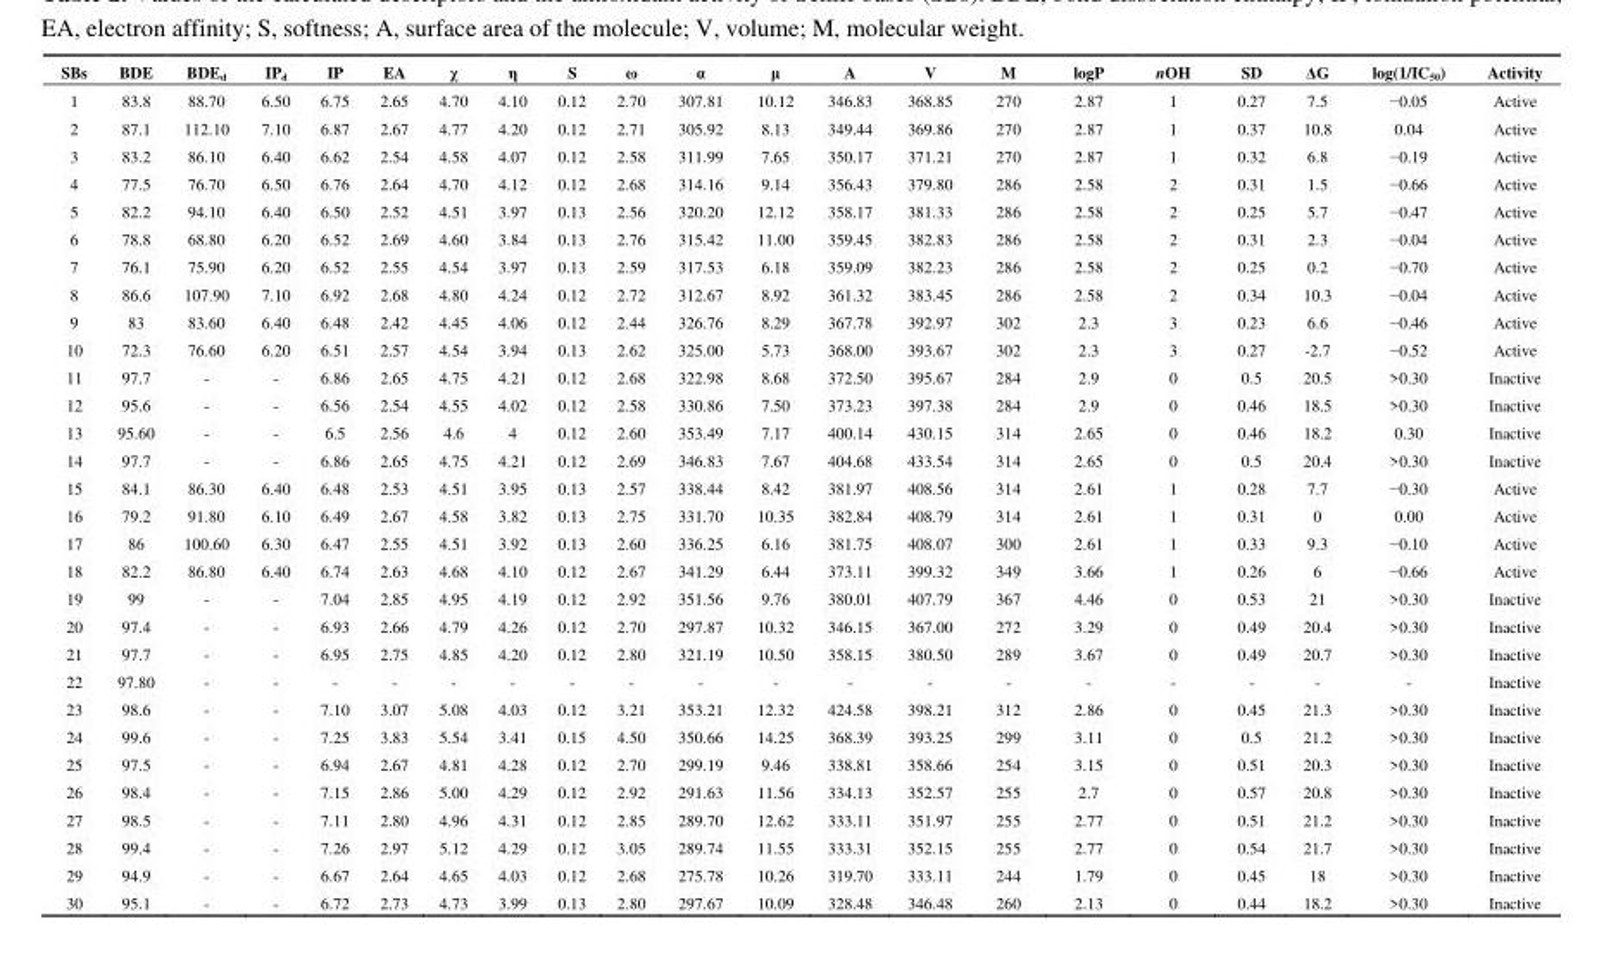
<table><thead><tr><td>SBs</td><td>BDE</td><td>BDE<sub>d</sub></td><td>IP<sub>d</sub></td><td>IP</td><td>EA</td><td>χ</td><td>η</td><td>S</td><td>ω</td><td>α</td><td>μ</td><td>A</td><td>V</td><td>M</td><td>logP</td><td>nOH</td><td>SD</td><td>ΔG</td><td>log(1/IC<sub>50</sub>)</td><td>Activity</td></tr></thead><tbody><tr><td>1</td><td>83.8</td><td>88.70</td><td>6.50</td><td>6.75</td><td>2.65</td><td>4.70</td><td>4.10</td><td>0.12</td><td>2.70</td><td>307.81</td><td>10.12</td><td>346.83</td><td>368.85</td><td>270</td><td>2.87</td><td>1</td><td>0.27</td><td>7.5</td><td>−0.05</td><td>Active</td></tr><tr><td>2</td><td>87.1</td><td>112.10</td><td>7.10</td><td>6.87</td><td>2.67</td><td>4.77</td><td>4.20</td><td>0.12</td><td>2.71</td><td>305.92</td><td>8.13</td><td>349.44</td><td>369.86</td><td>270</td><td>2.87</td><td>1</td><td>0.37</td><td>10.8</td><td>0.04</td><td>Active</td></tr><tr><td>3</td><td>83.2</td><td>86.10</td><td>6.40</td><td>6.62</td><td>2.54</td><td>4.58</td><td>4.07</td><td>0.12</td><td>2.58</td><td>311.99</td><td>7.65</td><td>350.17</td><td>371.21</td><td>270</td><td>2.87</td><td>1</td><td>0.32</td><td>6.8</td><td>−0.19</td><td>Active</td></tr><tr><td>4</td><td>77.5</td><td>76.70</td><td>6.50</td><td>6.76</td><td>2.64</td><td>4.70</td><td>4.12</td><td>0.12</td><td>2.68</td><td>314.16</td><td>9.14</td><td>356.43</td><td>379.80</td><td>286</td><td>2.58</td><td>2</td><td>0.31</td><td>1.5</td><td>−0.66</td><td>Active</td></tr><tr><td>5</td><td>82.2</td><td>94.10</td><td>6.40</td><td>6.50</td><td>2.52</td><td>4.51</td><td>3.97</td><td>0.13</td><td>2.56</td><td>320.20</td><td>12.12</td><td>358.17</td><td>381.33</td><td>286</td><td>2.58</td><td>2</td><td>0.25</td><td>5.7</td><td>−0.47</td><td>Active</td></tr><tr><td>6</td><td>78.8</td><td>68.80</td><td>6.20</td><td>6.52</td><td>2.69</td><td>4.60</td><td>3.84</td><td>0.13</td><td>2.76</td><td>315.42</td><td>11.00</td><td>359.45</td><td>382.83</td><td>286</td><td>2.58</td><td>2</td><td>0.31</td><td>2.3</td><td>−0.04</td><td>Active</td></tr><tr><td>7</td><td>76.1</td><td>75.90</td><td>6.20</td><td>6.52</td><td>2.55</td><td>4.54</td><td>3.97</td><td>0.13</td><td>2.59</td><td>317.53</td><td>6.18</td><td>359.09</td><td>382.23</td><td>286</td><td>2.58</td><td>2</td><td>0.25</td><td>0.2</td><td>−0.70</td><td>Active</td></tr><tr><td>8</td><td>86.6</td><td>107.90</td><td>7.10</td><td>6.92</td><td>2.68</td><td>4.80</td><td>4.24</td><td>0.12</td><td>2.72</td><td>312.67</td><td>8.92</td><td>361.32</td><td>383.45</td><td>286</td><td>2.58</td><td>2</td><td>0.34</td><td>10.3</td><td>−0.04</td><td>Active</td></tr><tr><td>9</td><td>83</td><td>83.60</td><td>6.40</td><td>6.48</td><td>2.42</td><td>4.45</td><td>4.06</td><td>0.12</td><td>2.44</td><td>326.76</td><td>8.29</td><td>367.78</td><td>392.97</td><td>302</td><td>2.3</td><td>3</td><td>0.23</td><td>6.6</td><td>−0.46</td><td>Active</td></tr><tr><td>10</td><td>72.3</td><td>76.60</td><td>6.20</td><td>6.51</td><td>2.57</td><td>4.54</td><td>3.94</td><td>0.13</td><td>2.62</td><td>325.00</td><td>5.73</td><td>368.00</td><td>393.67</td><td>302</td><td>2.3</td><td>3</td><td>0.27</td><td>-2.7</td><td>−0.52</td><td>Active</td></tr><tr><td>11</td><td>97.7</td><td>-</td><td>-</td><td>6.86</td><td>2.65</td><td>4.75</td><td>4.21</td><td>0.12</td><td>2.68</td><td>322.98</td><td>8.68</td><td>372.50</td><td>395.67</td><td>284</td><td>2.9</td><td>0</td><td>0.5</td><td>20.5</td><td>&gt;0.30</td><td>Inactive</td></tr><tr><td>12</td><td>95.6</td><td>-</td><td>-</td><td>6.56</td><td>2.54</td><td>4.55</td><td>4.02</td><td>0.12</td><td>2.58</td><td>330.86</td><td>7.50</td><td>373.23</td><td>397.38</td><td>284</td><td>2.9</td><td>0</td><td>0.46</td><td>18.5</td><td>&gt;0.30</td><td>Inactive</td></tr><tr><td>13</td><td>95.60</td><td>-</td><td>-</td><td>6.5</td><td>2.56</td><td>4.6</td><td>4</td><td>0.12</td><td>2.60</td><td>353.49</td><td>7.17</td><td>400.14</td><td>430.15</td><td>314</td><td>2.65</td><td>0</td><td>0.46</td><td>18.2</td><td>0.30</td><td>Inactive</td></tr><tr><td>14</td><td>97.7</td><td>-</td><td>-</td><td>6.86</td><td>2.65</td><td>4.75</td><td>4.21</td><td>0.12</td><td>2.69</td><td>346.83</td><td>7.67</td><td>404.68</td><td>433.54</td><td>314</td><td>2.65</td><td>0</td><td>0.5</td><td>20.4</td><td>&gt;0.30</td><td>Inactive</td></tr><tr><td>15</td><td>84.1</td><td>86.30</td><td>6.40</td><td>6.48</td><td>2.53</td><td>4.51</td><td>3.95</td><td>0.13</td><td>2.57</td><td>338.44</td><td>8.42</td><td>381.97</td><td>408.56</td><td>314</td><td>2.61</td><td>1</td><td>0.28</td><td>7.7</td><td>−0.30</td><td>Active</td></tr><tr><td>16</td><td>79.2</td><td>91.80</td><td>6.10</td><td>6.49</td><td>2.67</td><td>4.58</td><td>3.82</td><td>0.13</td><td>2.75</td><td>331.70</td><td>10.35</td><td>382.84</td><td>408.79</td><td>314</td><td>2.61</td><td>1</td><td>0.31</td><td>0</td><td>0.00</td><td>Active</td></tr><tr><td>17</td><td>86</td><td>100.60</td><td>6.30</td><td>6.47</td><td>2.55</td><td>4.51</td><td>3.92</td><td>0.13</td><td>2.60</td><td>336.25</td><td>6.16</td><td>381.75</td><td>408.07</td><td>300</td><td>2.61</td><td>1</td><td>0.33</td><td>9.3</td><td>−0.10</td><td>Active</td></tr><tr><td>18</td><td>82.2</td><td>86.80</td><td>6.40</td><td>6.74</td><td>2.63</td><td>4.68</td><td>4.10</td><td>0.12</td><td>2.67</td><td>341.29</td><td>6.44</td><td>373.11</td><td>399.32</td><td>349</td><td>3.66</td><td>1</td><td>0.26</td><td>6</td><td>−0.66</td><td>Active</td></tr><tr><td>19</td><td>99</td><td>-</td><td>-</td><td>7.04</td><td>2.85</td><td>4.95</td><td>4.19</td><td>0.12</td><td>2.92</td><td>351.56</td><td>9.76</td><td>380.01</td><td>407.79</td><td>367</td><td>4.46</td><td>0</td><td>0.53</td><td>21</td><td>&gt;0.30</td><td>Inactive</td></tr><tr><td>20</td><td>97.4</td><td>-</td><td>-</td><td>6.93</td><td>2.66</td><td>4.79</td><td>4.26</td><td>0.12</td><td>2.70</td><td>297.87</td><td>10.32</td><td>346.15</td><td>367.00</td><td>272</td><td>3.29</td><td>0</td><td>0.49</td><td>20.4</td><td>&gt;0.30</td><td>Inactive</td></tr><tr><td>21</td><td>97.7</td><td>-</td><td>-</td><td>6.95</td><td>2.75</td><td>4.85</td><td>4.20</td><td>0.12</td><td>2.80</td><td>321.19</td><td>10.50</td><td>358.15</td><td>380.50</td><td>289</td><td>3.67</td><td>0</td><td>0.49</td><td>20.7</td><td>&gt;0.30</td><td>Inactive</td></tr><tr><td>22</td><td>97.80</td><td>-</td><td>-</td><td>-</td><td>-</td><td>-</td><td>-</td><td>-</td><td>-</td><td>-</td><td>-</td><td>-</td><td>-</td><td>-</td><td>-</td><td>-</td><td>-</td><td>-</td><td>-</td><td>Inactive</td></tr><tr><td>23</td><td>98.6</td><td>-</td><td>-</td><td>7.10</td><td>3.07</td><td>5.08</td><td>4.03</td><td>0.12</td><td>3.21</td><td>353.21</td><td>12.32</td><td>424.58</td><td>398.21</td><td>312</td><td>2.86</td><td>0</td><td>0.45</td><td>21.3</td><td>&gt;0.30</td><td>Inactive</td></tr><tr><td>24</td><td>99.6</td><td>-</td><td>-</td><td>7.25</td><td>3.83</td><td>5.54</td><td>3.41</td><td>0.15</td><td>4.50</td><td>350.66</td><td>14.25</td><td>368.39</td><td>393.25</td><td>299</td><td>3.11</td><td>0</td><td>0.5</td><td>21.2</td><td>&gt;0.30</td><td>Inactive</td></tr><tr><td>25</td><td>97.5</td><td>-</td><td>-</td><td>6.94</td><td>2.67</td><td>4.81</td><td>4.28</td><td>0.12</td><td>2.70</td><td>299.19</td><td>9.46</td><td>338.81</td><td>358.66</td><td>254</td><td>3.15</td><td>0</td><td>0.51</td><td>20.3</td><td>&gt;0.30</td><td>Inactive</td></tr><tr><td>26</td><td>98.4</td><td>-</td><td>-</td><td>7.15</td><td>2.86</td><td>5.00</td><td>4.29</td><td>0.12</td><td>2.92</td><td>291.63</td><td>11.56</td><td>334.13</td><td>352.57</td><td>255</td><td>2.7</td><td>0</td><td>0.57</td><td>20.8</td><td>&gt;0.30</td><td>Inactive</td></tr><tr><td>27</td><td>98.5</td><td>-</td><td>-</td><td>7.11</td><td>2.80</td><td>4.96</td><td>4.31</td><td>0.12</td><td>2.85</td><td>289.70</td><td>12.62</td><td>333.11</td><td>351.97</td><td>255</td><td>2.77</td><td>0</td><td>0.51</td><td>21.2</td><td>&gt;0.30</td><td>Inactive</td></tr><tr><td>28</td><td>99.4</td><td>-</td><td>-</td><td>7.26</td><td>2.97</td><td>5.12</td><td>4.29</td><td>0.12</td><td>3.05</td><td>289.74</td><td>11.55</td><td>333.31</td><td>352.15</td><td>255</td><td>2.77</td><td>0</td><td>0.54</td><td>21.7</td><td>&gt;0.30</td><td>Inactive</td></tr><tr><td>29</td><td>94.9</td><td>-</td><td>-</td><td>6.67</td><td>2.64</td><td>4.65</td><td>4.03</td><td>0.12</td><td>2.68</td><td>275.78</td><td>10.26</td><td>319.70</td><td>333.11</td><td>244</td><td>1.79</td><td>0</td><td>0.45</td><td>18</td><td>&gt;0.30</td><td>Inactive</td></tr><tr><td>30</td><td>95.1</td><td>-</td><td>-</td><td>6.72</td><td>2.73</td><td>4.73</td><td>3.99</td><td>0.13</td><td>2.80</td><td>297.67</td><td>10.09</td><td>328.48</td><td>346.48</td><td>260</td><td>2.13</td><td>0</td><td>0.44</td><td>18.2</td><td>&gt;0.30</td><td>Inactive</td></tr></tbody></table>